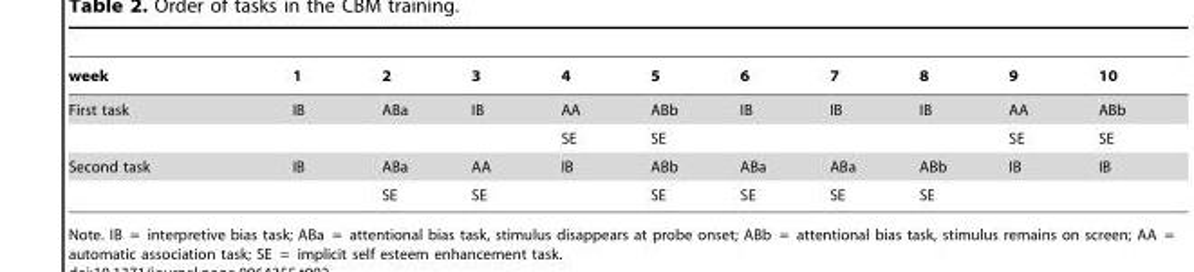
<table><thead><tr><td>week</td><td>1</td><td>2</td><td>3</td><td>4</td><td>5</td><td>6</td><td>7</td><td>8</td><td>9</td><td>10</td></tr></thead><tbody><tr><td rowspan="2">First task</td><td>IB</td><td>ABa</td><td>IB</td><td>AA</td><td>ABb</td><td>IB</td><td>IB</td><td>IB</td><td>AA</td><td>ABb</td></tr><tr><td></td><td></td><td></td><td>SE</td><td>SE</td><td></td><td></td><td></td><td>SE</td><td>SE</td></tr><tr><td rowspan="2">Second task</td><td>IB</td><td>ABa</td><td>AA</td><td>IB</td><td>ABb</td><td>ABa</td><td>ABa</td><td>ABb</td><td>IB</td><td>IB</td></tr><tr><td></td><td>SE</td><td>SE</td><td></td><td>SE</td><td>SE</td><td>SE</td><td>SE</td><td></td><td></td></tr></tbody></table>